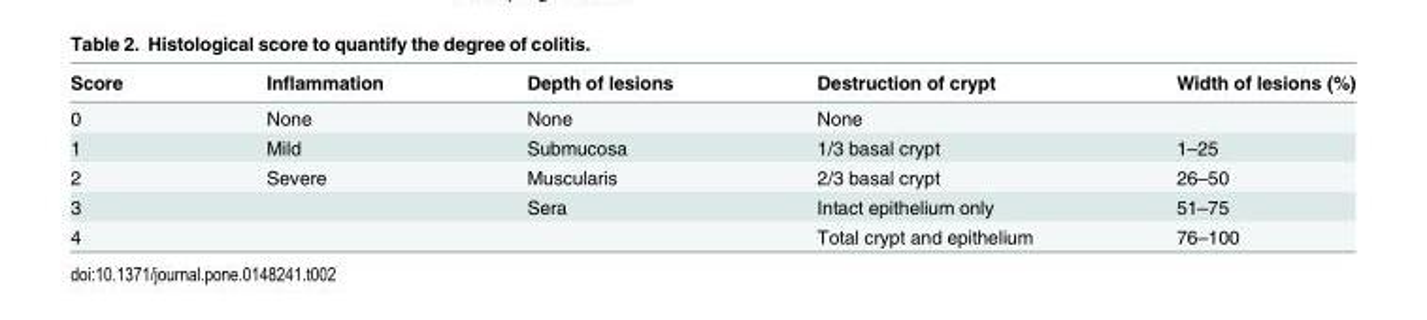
<table><thead><tr><td>Score</td><td>Inflammation</td><td>Depth of lesions</td><td>Destruction of crypt</td><td>Width of lesions (%)</td></tr></thead><tbody><tr><td>0</td><td>None</td><td>None</td><td>None</td><td></td></tr><tr><td>1</td><td>Mild</td><td>Submucosa</td><td>1/3 basal crypt</td><td>1–25</td></tr><tr><td>2</td><td>Severe</td><td>Muscularis</td><td>2/3 basal crypt</td><td>26–50</td></tr><tr><td>3</td><td></td><td>Sera</td><td>Intact epithelium only</td><td>51–75</td></tr><tr><td>4</td><td></td><td></td><td>Total crypt and epithelium</td><td>76–100</td></tr></tbody></table>